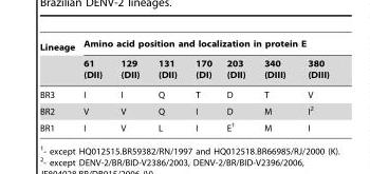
<table><thead><tr><td rowspan="2">Lineage</td><td colspan="7">Amino acid position and localization in protein E</td></tr><tr><td>61 (DII)</td><td>129 (DII)</td><td>131 (DII)</td><td>170 (DI)</td><td>203 (DII)</td><td>340 (DIII)</td><td>380 (DIII)</td></tr></thead><tbody><tr><td>BR3</td><td>I</td><td>I</td><td>Q</td><td>T</td><td>D</td><td>T</td><td>V</td></tr><tr><td>BR2</td><td>V</td><td>V</td><td>Q</td><td>I</td><td>D</td><td>M</td><td>I<sup>2</sup></td></tr><tr><td>BR1</td><td>I</td><td>V</td><td>L</td><td>I</td><td>E<sup>1</sup></td><td>M</td><td>I</td></tr></tbody></table>